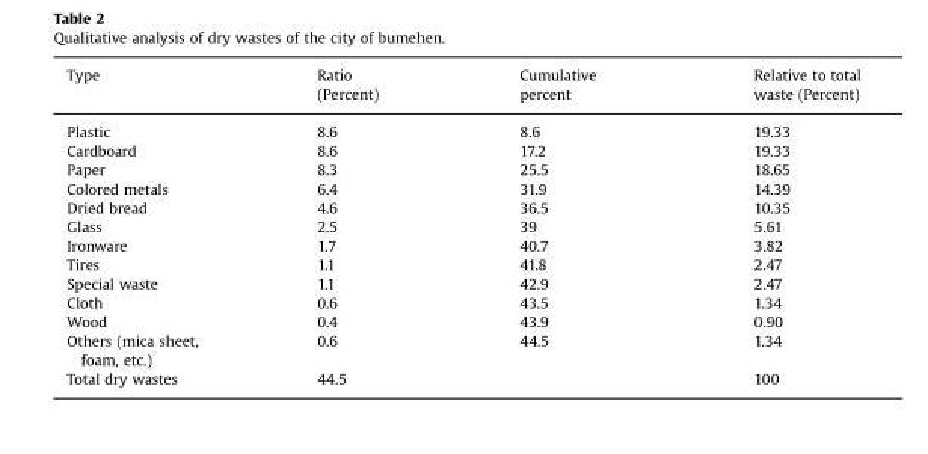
<table><thead><tr><td>Type</td><td>Ratio (Percent)</td><td>Cumulative percent</td><td>Relative to total waste (Percent)</td></tr></thead><tbody><tr><td>Plastic</td><td>8.6</td><td>8.6</td><td>19.33</td></tr><tr><td>Cardboard</td><td>8.6</td><td>17.2</td><td>19.33</td></tr><tr><td>Paper</td><td>8.3</td><td>25.5</td><td>18.65</td></tr><tr><td>Colored metals</td><td>6.4</td><td>31.9</td><td>14.39</td></tr><tr><td>Dried bread</td><td>4.6</td><td>36.5</td><td>10.35</td></tr><tr><td>Glass</td><td>2.5</td><td>39</td><td>5.61</td></tr><tr><td>Ironware</td><td>1.7</td><td>40.7</td><td>3.82</td></tr><tr><td>Tires</td><td>1.1</td><td>41.8</td><td>2.47</td></tr><tr><td>Special waste</td><td>1.1</td><td>42.9</td><td>2.47</td></tr><tr><td>Cloth</td><td>0.6</td><td>43.5</td><td>1.34</td></tr><tr><td>Wood</td><td>0.4</td><td>43.9</td><td>0.90</td></tr><tr><td>Others (mica sheet, foam, etc.)</td><td>0.6</td><td>44.5</td><td>1.34</td></tr><tr><td>Total dry wastes</td><td>44.5</td><td></td><td>100</td></tr></tbody></table>